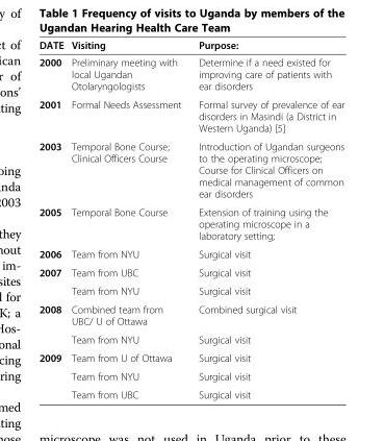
<table><thead><tr><td>DATE</td><td>Visiting</td><td>Purpose:</td></tr></thead><tbody><tr><td>2000</td><td>Preliminary meeting with local Ugandan Otolaryngologists</td><td>Determine if a need existed for improving care of patients with ear disorders</td></tr><tr><td>2001</td><td>Formal Needs Assessment</td><td>Formal survey of prevalence of ear disorders in Masindi (a District in Western Uganda) [5]</td></tr><tr><td>2003</td><td>Temporal Bone Course; Clinical Officers Course</td><td>Introduction of Ugandan surgeons to the operating microscope; Course for Clinical Officers on medical management of common ear disorders</td></tr><tr><td>2005</td><td>Temporal Bone Course</td><td>Extension of training using the operating microscope in a laboratory setting;</td></tr><tr><td>2006</td><td>Team from NYU</td><td>Surgical visit</td></tr><tr><td rowspan="2">2007</td><td>Team from UBC</td><td>Surgical visit</td></tr><tr><td>Team from NYU</td><td>Surgical visit</td></tr><tr><td rowspan="2">2008</td><td>Combined team from UBC/ U of Ottawa</td><td>Combined surgical visit</td></tr><tr><td>Team from NYU</td><td>Surgical visit</td></tr><tr><td rowspan="3">2009</td><td>Team from U of Ottawa</td><td>Surgical visit</td></tr><tr><td>Team from NYU</td><td>Surgical visit</td></tr><tr><td>Team from UBC</td><td>Surgical visit</td></tr></tbody></table>